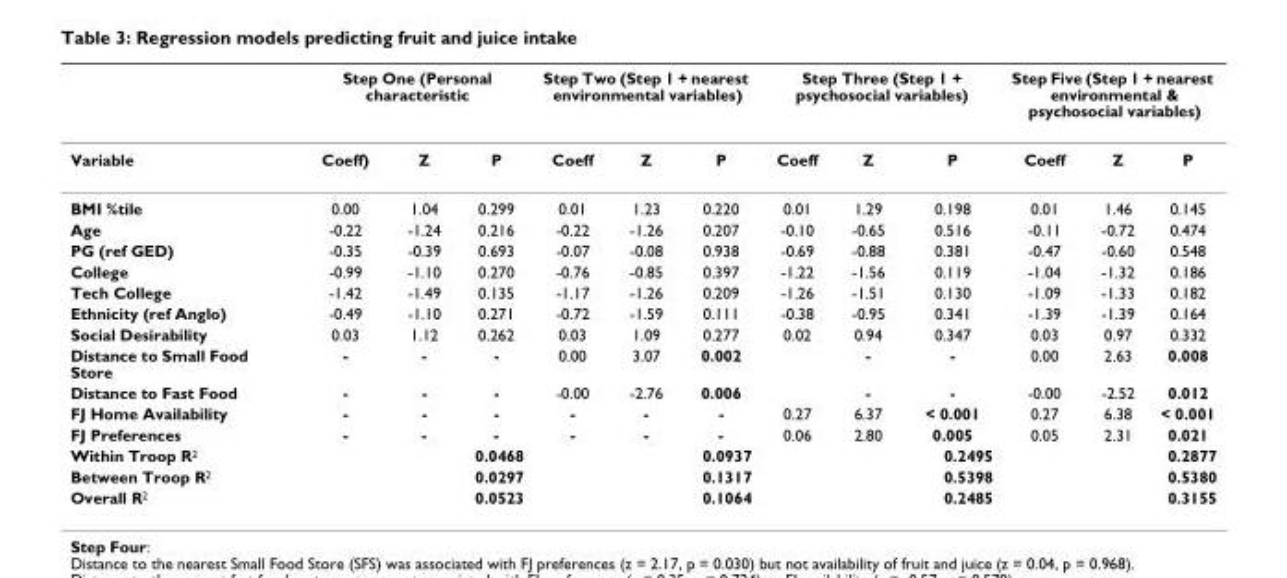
<table><thead><tr><td rowspan="2">Variable</td><td colspan="3">Step One (Personal characteristic</td><td colspan="3">Step Two (Step 1 + nearest environmental variables)</td><td colspan="3">Step Three (Step 1 + psychosocial variables)</td><td colspan="3">Step Five (Step 1 + nearest environmental &amp; psychosocial variables)</td></tr><tr><td>Coeff)</td><td>Z</td><td>P</td><td>Coeff</td><td>Z</td><td>P</td><td>Coeff</td><td>Z</td><td>P</td><td>Coeff</td><td>Z</td><td>P</td></tr></thead><tbody><tr><td>BMI %tile</td><td>0.00</td><td>1.04</td><td>0.299</td><td>0.01</td><td>1.23</td><td>0.220</td><td>0.01</td><td>1.29</td><td>0.198</td><td>0.01</td><td>1.46</td><td>0.145</td></tr><tr><td>Age</td><td>-0.22</td><td>-1.24</td><td>0.216</td><td>-0.22</td><td>-1.26</td><td>0.207</td><td>-0.10</td><td>-0.65</td><td>0.516</td><td>-0.11</td><td>-0.72</td><td>0.474</td></tr><tr><td>PG (ref GED)</td><td>-0.35</td><td>-0.39</td><td>0.693</td><td>-0.07</td><td>-0.08</td><td>0.938</td><td>-0.69</td><td>-0.88</td><td>0.381</td><td>-0.47</td><td>-0.60</td><td>0.548</td></tr><tr><td>College</td><td>-0.99</td><td>-1.10</td><td>0.270</td><td>-0.76</td><td>-0.85</td><td>0.397</td><td>-1.22</td><td>-1.56</td><td>0.119</td><td>-1.04</td><td>-1.32</td><td>0.186</td></tr><tr><td>Tech College</td><td>-1.42</td><td>-1.49</td><td>0.135</td><td>-1.17</td><td>-1.26</td><td>0.209</td><td>-1.26</td><td>-1.51</td><td>0.130</td><td>-1.09</td><td>-1.33</td><td>0.182</td></tr><tr><td>Ethnicity (ref Anglo)</td><td>-0.49</td><td>-1.10</td><td>0.271</td><td>-0.72</td><td>-1.59</td><td>0.111</td><td>-0.38</td><td>-0.95</td><td>0.341</td><td>-1.39</td><td>-1.39</td><td>0.164</td></tr><tr><td>Social Desirability</td><td>0.03</td><td>1.12</td><td>0.262</td><td>0.03</td><td>1.09</td><td>0.277</td><td>0.02</td><td>0.94</td><td>0.347</td><td>0.03</td><td>0.97</td><td>0.332</td></tr><tr><td>Distance to Small Food Store</td><td>-</td><td>-</td><td>-</td><td>0.00</td><td>3.07</td><td>0.002</td><td></td><td>-</td><td>-</td><td>0.00</td><td>2.63</td><td>0.008</td></tr><tr><td>Distance to Fast Food</td><td>-</td><td>-</td><td>-</td><td>-0.00</td><td>-2.76</td><td>0.006</td><td></td><td>-</td><td>-</td><td>-0.00</td><td>-2.52</td><td>0.012</td></tr><tr><td>FJ Home Availability</td><td>-</td><td>-</td><td>-</td><td>-</td><td>-</td><td>-</td><td>0.27</td><td>6.37</td><td>&lt; 0.001</td><td>0.27</td><td>6.38</td><td>&lt; 0.001</td></tr><tr><td>FJ Preferences</td><td>-</td><td>-</td><td>-</td><td>-</td><td>-</td><td>-</td><td>0.06</td><td>2.80</td><td>0.005</td><td>0.05</td><td>2.31</td><td>0.021</td></tr><tr><td>Within Troop R<sup>2</sup></td><td colspan="3">0.0468</td><td colspan="3">0.0937</td><td colspan="3">0.2495</td><td colspan="3">0.2877</td></tr><tr><td>Between Troop R<sup>2</sup></td><td colspan="3">0.0297</td><td colspan="3">0.1317</td><td colspan="3">0.5398</td><td colspan="3">0.5380</td></tr><tr><td>Overall R<sup>2</sup></td><td colspan="3">0.0523</td><td colspan="3">0.1064</td><td colspan="3">0.2485</td><td colspan="3">0.3155</td></tr></tbody></table>